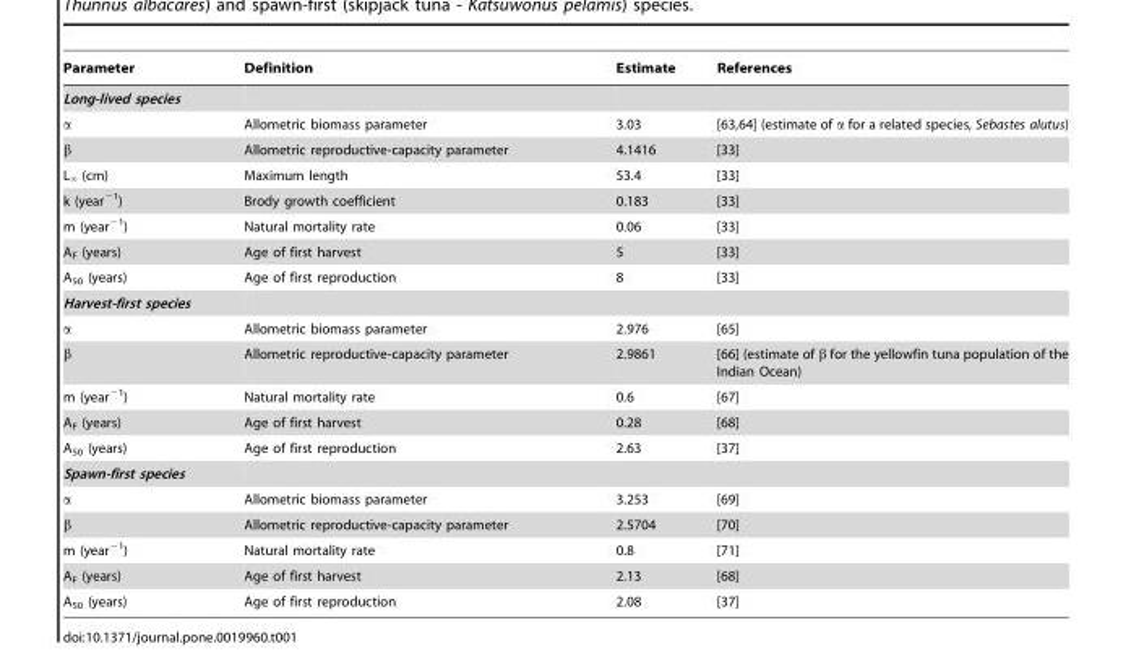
<table><thead><tr><td>Parameter</td><td>Definition</td><td>Estimate</td><td>References</td></tr></thead><tbody><tr><td colspan="4">Long-lived species</td></tr><tr><td>α</td><td>Allometric biomass parameter</td><td>3.03</td><td>[63,64] (estimate of a for a related species, Sebastes alutus)</td></tr><tr><td>β</td><td>Allometric reproductive-capacity parameter</td><td>4.1416</td><td>[33]</td></tr><tr><td>L‘ (cm)</td><td>Maximum length</td><td>53.4</td><td>[33]</td></tr><tr><td>k (year<sup>−1</sup>)</td><td>Brody growth coefficient</td><td>0.183</td><td>[33]</td></tr><tr><td>m (year<sup>−1</sup>)</td><td>Natural mortality rate</td><td>0.06</td><td>[33]</td></tr><tr><td>A<sub>F</sub> (years)</td><td>Age of first harvest</td><td>5</td><td>[33]</td></tr><tr><td>A<sub>50</sub> (years)</td><td>Age of first reproduction</td><td>8</td><td>[33]</td></tr><tr><td colspan="4">Harvest-first species</td></tr><tr><td>α</td><td>Allometric biomass parameter</td><td>2.976</td><td>[65]</td></tr><tr><td>β</td><td>Allometric reproductive-capacity parameter</td><td>2.9861</td><td>[66] (estimate of β for the yellowfin tuna population of the Indian Ocean)</td></tr><tr><td>m (year<sup>−1</sup>)</td><td>Natural mortality rate</td><td>0.6</td><td>[67]</td></tr><tr><td>A<sub>F</sub> (years)</td><td>Age of first harvest</td><td>0.28</td><td>[68]</td></tr><tr><td>A<sub>50</sub> (years)</td><td>Age of first reproduction</td><td>2.63</td><td>[37]</td></tr><tr><td colspan="4">Spawn-first species</td></tr><tr><td>α</td><td>Allometric biomass parameter</td><td>3.253</td><td>[69]</td></tr><tr><td>β</td><td>Allometric reproductive-capacity parameter</td><td>2.5704</td><td>[70]</td></tr><tr><td>m (year<sup>−1</sup>)</td><td>Natural mortality rate</td><td>0.8</td><td>[71]</td></tr><tr><td>A<sub>F</sub> (years)</td><td>Age of first harvest</td><td>2.13</td><td>[68]</td></tr><tr><td>A<sub>50</sub> (years)</td><td>Age of first reproduction</td><td>2.08</td><td>[37]</td></tr></tbody></table>